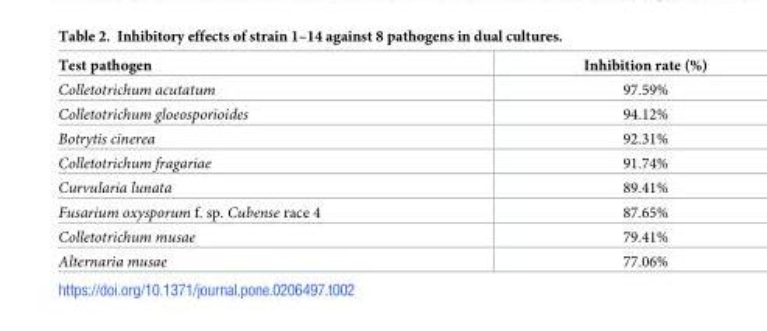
<table><thead><tr><td>Test pathogen</td><td>Inhibition rate (%)</td></tr></thead><tbody><tr><td>Colletotrichum acutatum</td><td>97.59%</td></tr><tr><td>Colletotrichum gloeosporioides</td><td>94.12%</td></tr><tr><td>Botrytis cinerea</td><td>92.31%</td></tr><tr><td>Colletotrichum fragariae</td><td>91.74%</td></tr><tr><td>Curvularia lunata</td><td>89.41%</td></tr><tr><td>Fusarium oxysporum f. sp. Cubense race 4</td><td>87.65%</td></tr><tr><td>Colletotrichum musae</td><td>79.41%</td></tr><tr><td>Alternaria musae</td><td>77.06%</td></tr></tbody></table>